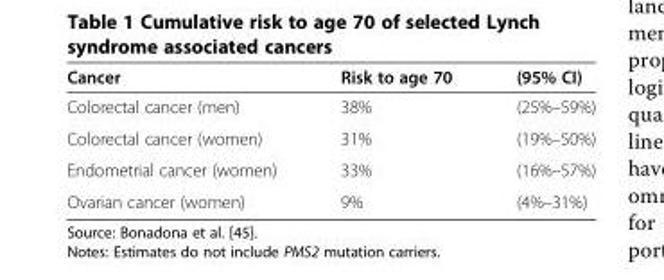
<table><thead><tr><td>Cancer</td><td>Risk to age 70</td><td>(95% CI)</td></tr></thead><tbody><tr><td>Colorectal cancer (men)</td><td>38%</td><td>(25%–59%)</td></tr><tr><td>Colorectal cancer (women)</td><td>31%</td><td>(19%–50%)</td></tr><tr><td>Endometrial cancer (women)</td><td>33%</td><td>(16%–57%)</td></tr><tr><td>Ovarian cancer (women)</td><td>9%</td><td>(4%–31%)</td></tr></tbody></table>